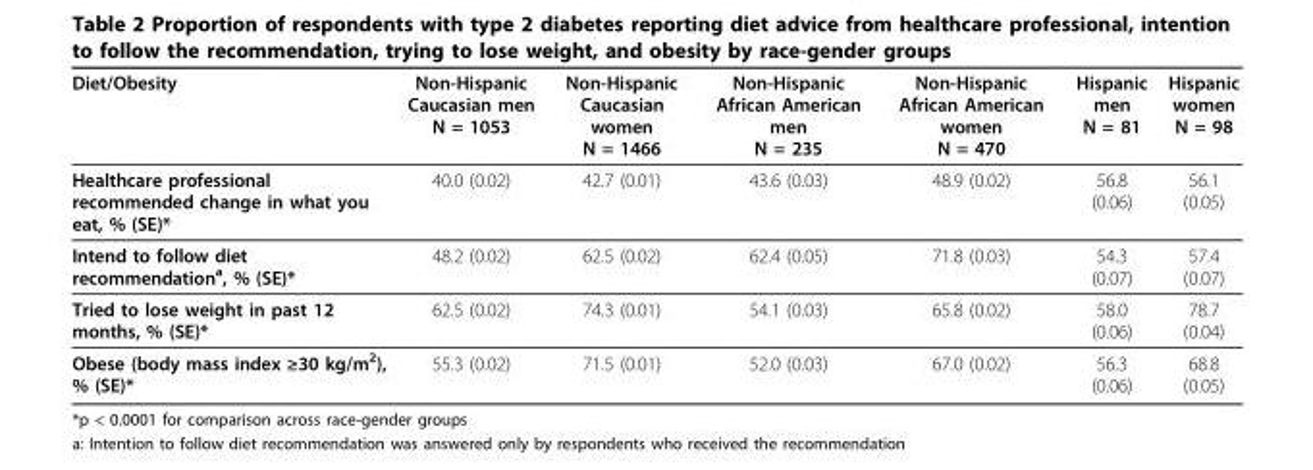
<table><thead><tr><td>Diet/Obesity</td><td>Non-Hispanic Caucasian men N = 1053</td><td>Non-Hispanic Caucasian women N = 1466</td><td>Non-Hispanic African American men N = 235</td><td>Non-Hispanic African American women N = 470</td><td>Hispanic men N = 81</td><td>Hispanic women N = 98</td></tr></thead><tbody><tr><td>Healthcare professional recommended change in what you eat, % (SE)*</td><td>40.0 (0.02)</td><td>42.7 (0.01)</td><td>43.6 (0.03)</td><td>48.9 (0.02)</td><td>56.8 (0.06)</td><td>56.1 (0.05)</td></tr><tr><td>Intend to follow diet recommendation<sup>a</sup>, % (SE)*</td><td>48.2 (0.02)</td><td>62.5 (0.02)</td><td>62.4 (0.05)</td><td>71.8 (0.03)</td><td>54.3 (0.07)</td><td>57.4 (0.07)</td></tr><tr><td>Tried to lose weight in past 12 months, % (SE)*</td><td>62.5 (0.02)</td><td>74.3 (0.01)</td><td>54.1 (0.03)</td><td>65.8 (0.02)</td><td>58.0 (0.06)</td><td>78.7 (0.04)</td></tr><tr><td>Obese (body mass index ≥30 kg/m<sup>2</sup>), % (SE)*</td><td>55.3 (0.02)</td><td>71.5 (0.01)</td><td>52.0 (0.03)</td><td>67.0 (0.02)</td><td>56.3 (0.06)</td><td>68.8 (0.05)</td></tr></tbody></table>